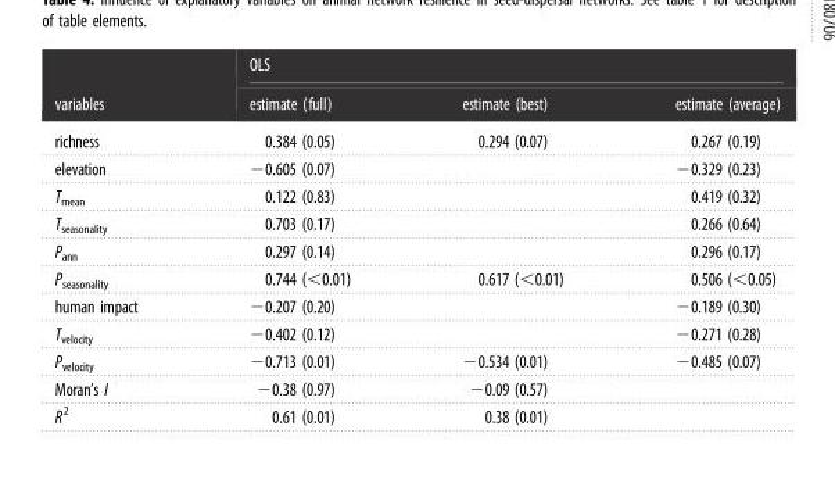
<table><thead><tr><td rowspan="2">variables</td><td colspan="3">OLS</td></tr><tr><td>estimate (full)</td><td>estimate (best)</td><td>estimate (average)</td></tr></thead><tbody><tr><td>richness</td><td>0.384 (0.05)</td><td>0.294 (0.07)</td><td>0.267 (0.19)</td></tr><tr><td>elevation</td><td>−0.605 (0.07)</td><td></td><td>−0.329 (0.23)</td></tr><tr><td>T<sub>mean</sub></td><td>0.122 (0.83)</td><td></td><td>0.419 (0.32)</td></tr><tr><td>T<sub>seasonality</sub></td><td>0.703 (0.17)</td><td></td><td>0.266 (0.64)</td></tr><tr><td>P<sub>ann</sub></td><td>0.297 (0.14)</td><td></td><td>0.296 (0.17)</td></tr><tr><td>P<sub>seasonality</sub></td><td>0.744 (&lt;0.01)</td><td>0.617 (&lt;0.01)</td><td>0.506 (&lt;0.05)</td></tr><tr><td>human impact</td><td>−0.207 (0.20)</td><td></td><td>−0.189 (0.30)</td></tr><tr><td>T<sub>velocity</sub></td><td>−0.402 (0.12)</td><td></td><td>−0.271 (0.28)</td></tr><tr><td>P<sub>velocity</sub></td><td>−0.713 (0.01)</td><td>−0.534 (0.01)</td><td>−0.485 (0.07)</td></tr><tr><td>Moran’s I</td><td>−0.38 (0.97)</td><td>−0.09 (0.57)</td><td></td></tr><tr><td>R<sup>2</sup></td><td>0.61 (0.01)</td><td>0.38 (0.01)</td><td></td></tr></tbody></table>